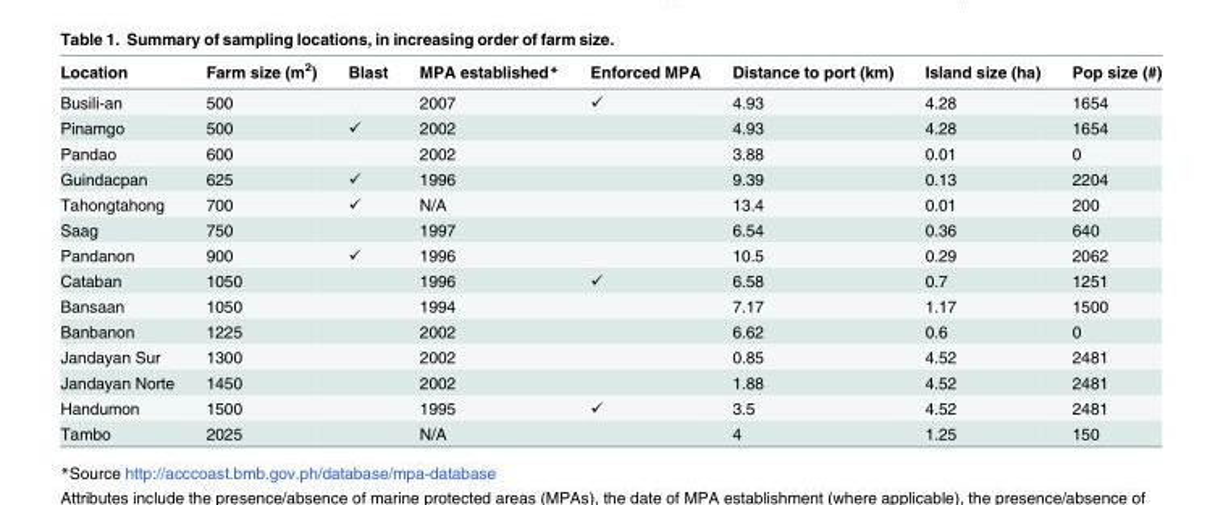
<table><thead><tr><td>Location</td><td>Farm size (m<sup>2</sup>)</td><td>Blast</td><td>MPA established*</td><td>Enforced MPA</td><td>Distance to port (km)</td><td>Island size (ha)</td><td>Pop size (#)</td></tr></thead><tbody><tr><td>Busili-an</td><td>500</td><td></td><td>2007</td><td>✓</td><td>4.93</td><td>4.28</td><td>1654</td></tr><tr><td>Pinamgo</td><td>500</td><td>✓</td><td>2002</td><td></td><td>4.93</td><td>4.28</td><td>1654</td></tr><tr><td>Pandao</td><td>600</td><td></td><td>2002</td><td></td><td>3.88</td><td>0.01</td><td>0</td></tr><tr><td>Guindacpan</td><td>625</td><td>✓</td><td>1996</td><td></td><td>9.39</td><td>0.13</td><td>2204</td></tr><tr><td>Tahongtahong</td><td>700</td><td>✓</td><td>N/A</td><td></td><td>13.4</td><td>0.01</td><td>200</td></tr><tr><td>Saag</td><td>750</td><td></td><td>1997</td><td></td><td>6.54</td><td>0.36</td><td>640</td></tr><tr><td>Pandanon</td><td>900</td><td>✓</td><td>1996</td><td></td><td>10.5</td><td>0.29</td><td>2062</td></tr><tr><td>Cataban</td><td>1050</td><td></td><td>1996</td><td>✓</td><td>6.58</td><td>0.7</td><td>1251</td></tr><tr><td>Bansaan</td><td>1050</td><td></td><td>1994</td><td></td><td>7.17</td><td>1.17</td><td>1500</td></tr><tr><td>Banbanon</td><td>1225</td><td></td><td>2002</td><td></td><td>6.62</td><td>0.6</td><td>0</td></tr><tr><td>Jandayan Sur</td><td>1300</td><td></td><td>2002</td><td></td><td>0.85</td><td>4.52</td><td>2481</td></tr><tr><td>Jandayan Norte</td><td>1450</td><td></td><td>2002</td><td></td><td>1.88</td><td>4.52</td><td>2481</td></tr><tr><td>Handumon</td><td>1500</td><td></td><td>1995</td><td>✓</td><td>3.5</td><td>4.52</td><td>2481</td></tr><tr><td>Tambo</td><td>2025</td><td></td><td>N/A</td><td></td><td>4</td><td>1.25</td><td>150</td></tr></tbody></table>